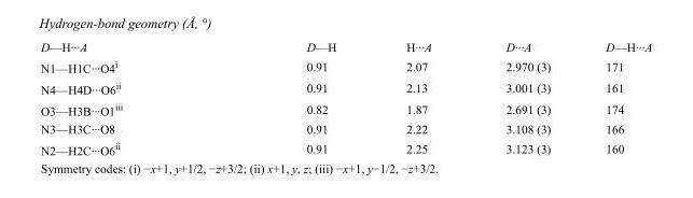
<table><tbody><tr><td>D—H···A</td><td>D—H</td><td>H···A</td><td>D···A</td><td>D—H···A</td></tr><tr><td>N1—H1C···O4<sup>i</sup></td><td>0.91</td><td>2.07</td><td>2.970 (3)</td><td>171</td></tr><tr><td>N4—H4D···O6<sup>ii</sup></td><td>0.91</td><td>2.13</td><td>3.001 (3)</td><td>161</td></tr><tr><td>O3—H3B···O1<sup>iii</sup></td><td>0.82</td><td>1.87</td><td>2.691 (3)</td><td>174</td></tr><tr><td>N3—H3C···O8</td><td>0.91</td><td>2.22</td><td>3.108 (3)</td><td>166</td></tr><tr><td>N2—H2C···O6<sup>ii</sup></td><td>0.91</td><td>2.25</td><td>3.123 (3)</td><td>160</td></tr></tbody></table>